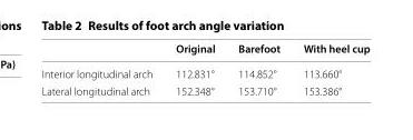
<table><thead><tr><td></td><td>Original</td><td>Barefoot</td><td>With heel cup</td></tr></thead><tbody><tr><td>Interior longitudinal arch</td><td>112.831°</td><td>114.852°</td><td>113.660°</td></tr><tr><td>Lateral longitudinal arch</td><td>152.348°</td><td>153.710°</td><td>153.386°</td></tr></tbody></table>